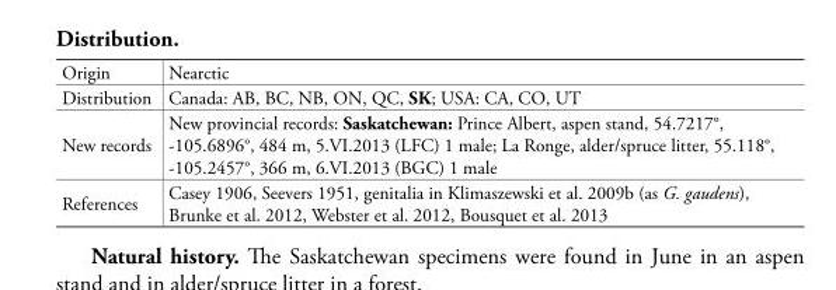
<table><tbody><tr><td>Origin</td><td>Nearctic</td></tr><tr><td>Distribution</td><td>Canada: AB, BC, NB, ON, QC, SK; USA: CA, CO, UT</td></tr><tr><td>New records</td><td>New provincial records: Saskatchewan: Prince Albert, aspen stand, 54.7217°, -105.6896°, 484 m, 5.VI.2013 (LFC) 1 male; La Ronge, alder/spruce litter, 55.118°, -105.2457°, 366 m, 6.VI.2013 (BGC) 1 male</td></tr><tr><td>References</td><td>Casey 1906, Seevers 1951, genitalia in Klimaszewski et al. 2009b (as G. gaudens), Brunke et al. 2012, Webster et al. 2012, Bousquet et al. 2013</td></tr></tbody></table>